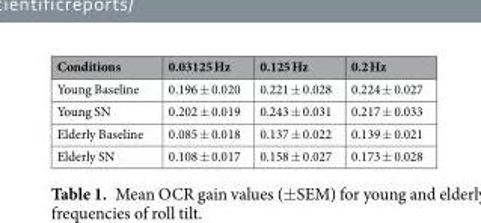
<table><thead><tr><td>Conditions</td><td>0.03125 Hz</td><td>0.125 Hz</td><td>0.2 Hz</td></tr></thead><tbody><tr><td>Young Baseline</td><td>0.196 ± 0.020</td><td>0.221 ± 0.028</td><td>0.224 ± 0.027</td></tr><tr><td>Young SN</td><td>0.202 ± 0.019</td><td>0.243 ± 0.031</td><td>0.217 ± 0.033</td></tr><tr><td>Elderly Baseline</td><td>0.085 ± 0.018</td><td>0.137 ± 0.022</td><td>0.139 ± 0.021</td></tr><tr><td>Elderly SN</td><td>0.108 ± 0.017</td><td>0.158 ± 0.027</td><td>0.173 ± 0.028</td></tr></tbody></table>